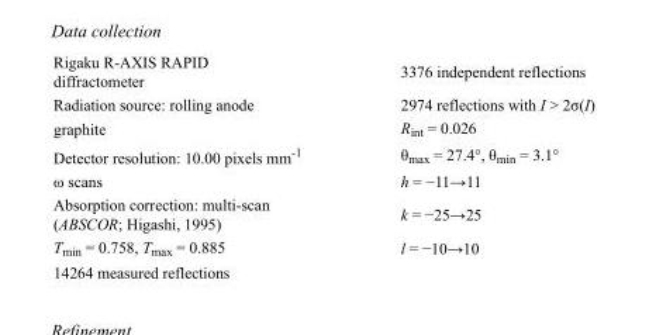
<table><tbody><tr><td>Rigaku R-AXIS RAPID diffractometer</td><td>3376 independent reflections</td></tr><tr><td>Radiation source: rolling anode</td><td>2974 reflections with I &gt; 2σ(I)</td></tr><tr><td>graphite</td><td>R<sub>int</sub> = 0.026</td></tr><tr><td>Detector resolution: 10.00 pixels mm<sup>-1</sup></td><td>θ<sub>max</sub> = 27.4°, θ<sub>min</sub> = 3.1°</td></tr><tr><td>ω scans</td><td>h = −11→11</td></tr><tr><td>Absorption correction: multi-scan (ABSCOR; Higashi, 1995)</td><td>k = −25→25</td></tr><tr><td>T<sub>min</sub> = 0.758, T<sub>max</sub> = 0.885</td><td>l = −10→10</td></tr><tr><td>14264 measured reflections</td><td></td></tr></tbody></table>